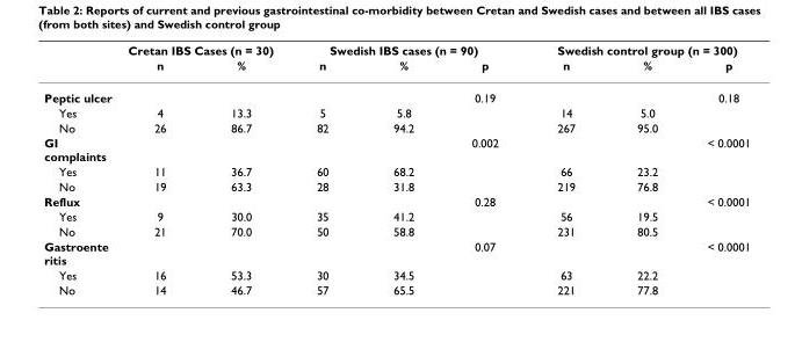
<table><thead><tr><td rowspan="2"></td><td colspan="2">Cretan IBS Cases (n = 30)</td><td colspan="3">Swedish IBS cases (n = 90)</td><td colspan="3">Swedish control group (n = 300)</td></tr><tr><td>n</td><td>%</td><td>n</td><td>%</td><td>p</td><td>n</td><td>%</td><td>p</td></tr></thead><tbody><tr><td>Peptic ulcer</td><td></td><td></td><td></td><td></td><td>0.19</td><td></td><td></td><td>0.18</td></tr><tr><td>Yes</td><td>4</td><td>13.3</td><td>5</td><td>5.8</td><td></td><td>14</td><td>5.0</td><td></td></tr><tr><td>No</td><td>26</td><td>86.7</td><td>82</td><td>94.2</td><td></td><td>267</td><td>95.0</td><td></td></tr><tr><td>GI complaints</td><td></td><td></td><td></td><td></td><td>0.002</td><td></td><td></td><td>&lt; 0.0001</td></tr><tr><td>Yes</td><td>11</td><td>36.7</td><td>60</td><td>68.2</td><td></td><td>66</td><td>23.2</td><td></td></tr><tr><td>No</td><td>19</td><td>63.3</td><td>28</td><td>31.8</td><td></td><td>219</td><td>76.8</td><td></td></tr><tr><td>Reflux</td><td></td><td></td><td></td><td></td><td>0.28</td><td></td><td></td><td>&lt; 0.0001</td></tr><tr><td>Yes</td><td>9</td><td>30.0</td><td>35</td><td>41.2</td><td></td><td>56</td><td>19.5</td><td></td></tr><tr><td>No</td><td>21</td><td>70.0</td><td>50</td><td>58.8</td><td></td><td>231</td><td>80.5</td><td></td></tr><tr><td>Gastroente ritis</td><td></td><td></td><td></td><td></td><td>0.07</td><td></td><td></td><td>&lt; 0.0001</td></tr><tr><td>Yes</td><td>16</td><td>53.3</td><td>30</td><td>34.5</td><td></td><td>63</td><td>22.2</td><td></td></tr><tr><td>No</td><td>14</td><td>46.7</td><td>57</td><td>65.5</td><td></td><td>221</td><td>77.8</td><td></td></tr></tbody></table>